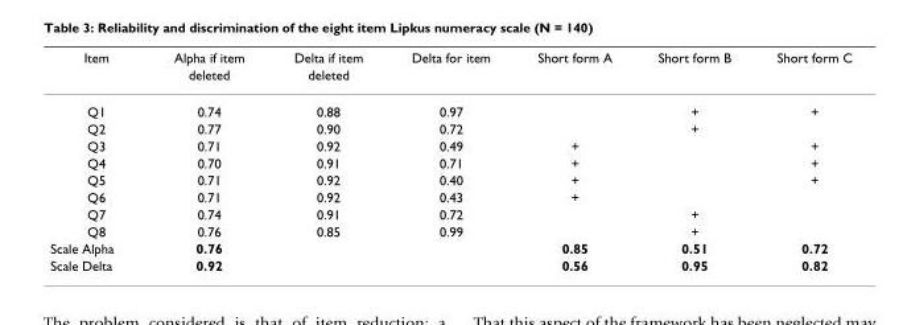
<table><thead><tr><td rowspan="2">Item</td><td rowspan="2">Alpha if item deleted</td><td rowspan="2">Delta if item deleted</td><td rowspan="2">Delta for item</td><td rowspan="2">Short form A</td><td rowspan="2">Short form B</td><td rowspan="2">Short form C</td></tr><tr></tr></thead><tbody><tr><td>Q1</td><td>0.74</td><td>0.88</td><td>0.97</td><td></td><td>+</td><td>+</td></tr><tr><td>Q2</td><td>0.77</td><td>0.90</td><td>0.72</td><td></td><td>+</td><td></td></tr><tr><td>Q3</td><td>0.71</td><td>0.92</td><td>0.49</td><td>+</td><td></td><td>+</td></tr><tr><td>Q4</td><td>0.70</td><td>0.91</td><td>0.71</td><td>+</td><td></td><td>+</td></tr><tr><td>Q5</td><td>0.71</td><td>0.92</td><td>0.40</td><td>+</td><td></td><td>+</td></tr><tr><td>Q6</td><td>0.71</td><td>0.92</td><td>0.43</td><td>+</td><td></td><td></td></tr><tr><td>Q7</td><td>0.74</td><td>0.91</td><td>0.72</td><td></td><td>+</td><td></td></tr><tr><td>Q8</td><td>0.76</td><td>0.85</td><td>0.99</td><td></td><td>+</td><td></td></tr><tr><td>Scale Alpha</td><td>0.76</td><td></td><td></td><td>0.85</td><td>0.51</td><td>0.72</td></tr><tr><td>Scale Delta</td><td>0.92</td><td></td><td></td><td>0.56</td><td>0.95</td><td>0.82</td></tr></tbody></table>